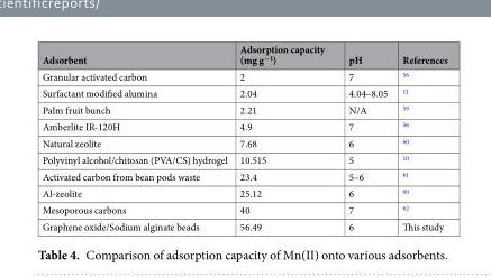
<table><thead><tr><td>Adsorbent</td><td>Adsorption capacity (mg g<sup>−1</sup>)</td><td>pH</td><td>References</td></tr></thead><tbody><tr><td>Granular activated carbon</td><td>2</td><td>7</td><td><sup>56</sup></td></tr><tr><td>Surfactant modified alumina</td><td>2.04</td><td>4.04–8.05</td><td><sup>11</sup></td></tr><tr><td>Palm fruit bunch</td><td>2.21</td><td>N/A</td><td><sup>59</sup></td></tr><tr><td>Amberlite IR-120H</td><td>4.9</td><td>7</td><td><sup>56</sup></td></tr><tr><td>Natural zeolite</td><td>7.68</td><td>6</td><td><sup>60</sup></td></tr><tr><td>Polyvinyl alcohol/chitosan (PVA/CS) hydrogel</td><td>10.515</td><td>5</td><td><sup>10</sup></td></tr><tr><td>Activated carbon from bean pods waste</td><td>23.4</td><td>5–6</td><td><sup>61</sup></td></tr><tr><td>Al-zeolite</td><td>25.12</td><td>6</td><td><sup>60</sup></td></tr><tr><td>Mesoporous carbons</td><td>40</td><td>7</td><td><sup>62</sup></td></tr><tr><td>Graphene oxide/Sodium alginate beads</td><td>56.49</td><td>6</td><td>This study</td></tr></tbody></table>